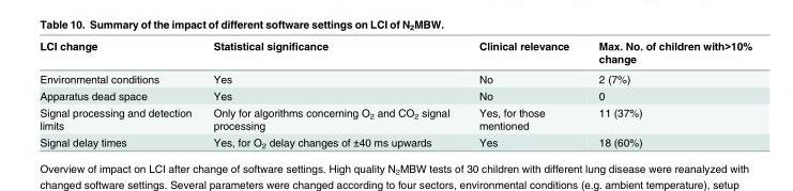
<table><thead><tr><td>LCI change</td><td>Statistical significance</td><td>Clinical relevance</td><td>Max. No. of children with&gt;10% change</td></tr></thead><tbody><tr><td>Environmental conditions</td><td>Yes</td><td>No</td><td>2 (7%)</td></tr><tr><td>Apparatus dead space</td><td>Yes</td><td>No</td><td>0</td></tr><tr><td>Signal processing and detection limits</td><td>Only for algorithms concerning O<sub>2</sub> and CO<sub>2</sub> signal processing</td><td>Yes, for those mentioned</td><td>11 (37%)</td></tr><tr><td>Signal delay times</td><td>Yes, for O<sub>2</sub> delay changes of ±40 ms upwards</td><td>Yes</td><td>18 (60%)</td></tr></tbody></table>